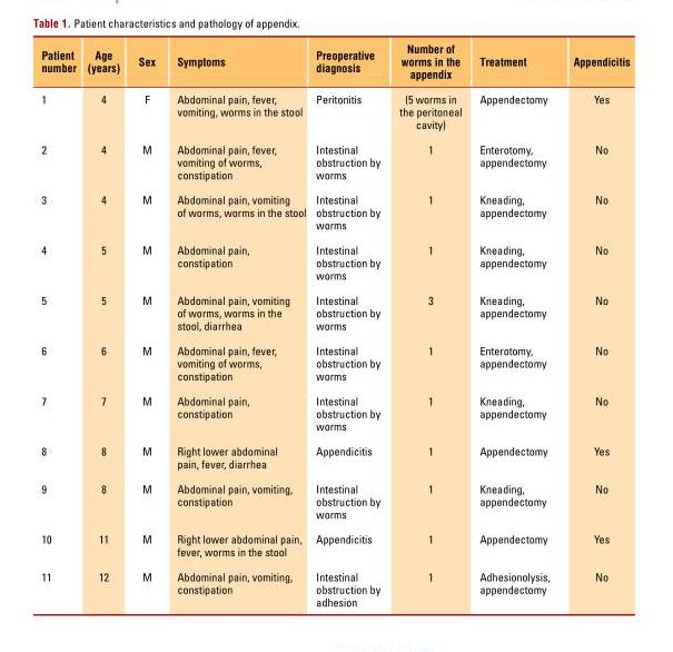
<table><thead><tr><td>Patient number</td><td>Age (years)</td><td>Sex</td><td>Symptoms</td><td>Preoperative diagnosis</td><td>Number of worms in the appendix</td><td>Treatment</td><td>Appendicitis</td></tr></thead><tbody><tr><td>1</td><td>4</td><td>F</td><td>Abdominal pain, fever, vomiting, worms in the stool</td><td>Peritonitis</td><td>(5 worms in the peritoneal cavity)</td><td>Appendectomy</td><td>Yes</td></tr><tr><td>2</td><td>4</td><td>M</td><td>Abdominal pain, fever, vomiting of worms, constipation</td><td>Intestinal obstruction by worms</td><td>1</td><td>Enterotomy, appendectomy</td><td>No</td></tr><tr><td>3</td><td>4</td><td>M</td><td>Abdominal pain, vomiting of worms, worms in the stool</td><td>Intestinal obstruction by worms</td><td>1</td><td>Kneading, appendectomy</td><td>No</td></tr><tr><td>4</td><td>5</td><td>M</td><td>Abdominal pain, constipation</td><td>Intestinal obstruction by worms</td><td>1</td><td>Kneading, appendectomy</td><td>No</td></tr><tr><td>5</td><td>5</td><td>M</td><td>Abdominal pain, vomiting of worms, worms in the stool, diarrhea</td><td>Intestinal obstruction by worms</td><td>3</td><td>Kneading, appendectomy</td><td>No</td></tr><tr><td>6</td><td>6</td><td>M</td><td>Abdominal pain, fever, vomiting of worms, constipation</td><td>Intestinal obstruction by worms</td><td>1</td><td>Enterotomy, appendectomy</td><td>No</td></tr><tr><td>7</td><td>7</td><td>M</td><td>Abdominal pain, constipation</td><td>Intestinal obstruction by worms</td><td>1</td><td>Kneading, appendectomy</td><td>No</td></tr><tr><td>8</td><td>8</td><td>M</td><td>Right lower abdominal pain, fever, diarrhea</td><td>Appendicitis</td><td>1</td><td>Appendectomy</td><td>Yes</td></tr><tr><td>9</td><td>8</td><td>M</td><td>Abdominal pain, vomiting, constipation</td><td>Intestinal obstruction by worms</td><td>1</td><td>Kneading, appendectomy</td><td>No</td></tr><tr><td>10</td><td>11</td><td>M</td><td>Right lower abdominal pain, fever, worms in the stool</td><td>Appendicitis</td><td>1</td><td>Appendectomy</td><td>Yes</td></tr><tr><td>11</td><td>12</td><td>M</td><td>Abdominal pain, vomiting, constipation</td><td>Intestinal obstruction by adhesion</td><td>1</td><td>Adhesionolysis, appendectomy</td><td>No</td></tr></tbody></table>